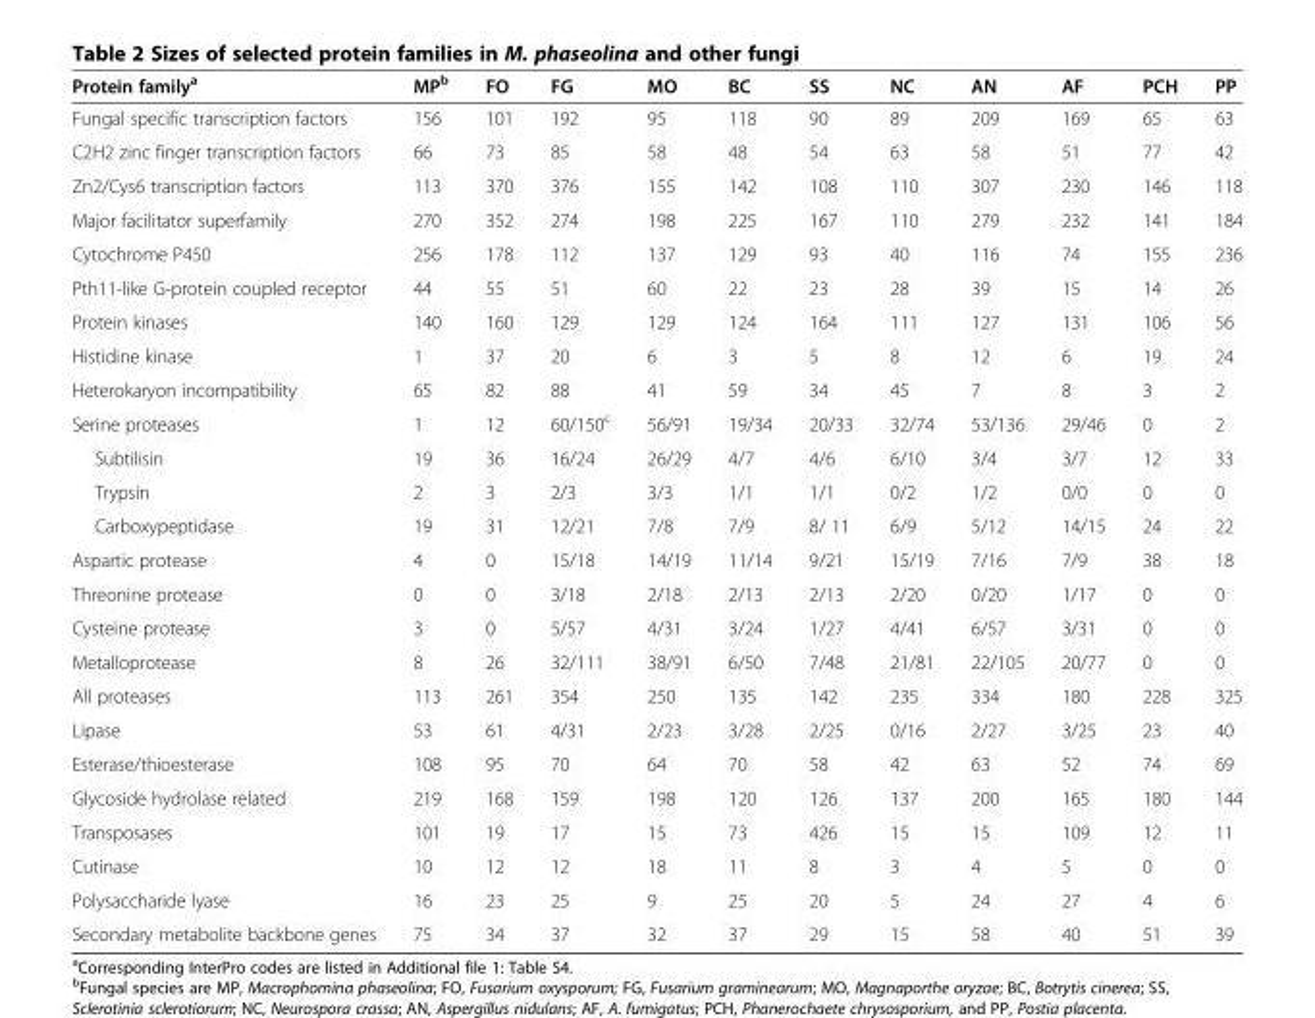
<table><thead><tr><td>Protein family<sup>a</sup></td><td>MP<sup>b</sup></td><td>FO</td><td>FG</td><td>MO</td><td>BC</td><td>SS</td><td>NC</td><td>AN</td><td>AF</td><td>PCH</td><td>PP</td></tr></thead><tbody><tr><td>Fungal specific transcription factors</td><td>156</td><td>101</td><td>192</td><td>95</td><td>118</td><td>90</td><td>89</td><td>209</td><td>169</td><td>65</td><td>63</td></tr><tr><td>C2H2 zinc finger transcription factors</td><td>66</td><td>73</td><td>85</td><td>58</td><td>48</td><td>54</td><td>63</td><td>58</td><td>51</td><td>77</td><td>42</td></tr><tr><td>Zn2/Cys6 transcription factors</td><td>113</td><td>370</td><td>376</td><td>155</td><td>142</td><td>108</td><td>110</td><td>307</td><td>230</td><td>146</td><td>118</td></tr><tr><td>Major facilitator superfamily</td><td>270</td><td>352</td><td>274</td><td>198</td><td>225</td><td>167</td><td>110</td><td>279</td><td>232</td><td>141</td><td>184</td></tr><tr><td>Cytochrome P450</td><td>256</td><td>178</td><td>112</td><td>137</td><td>129</td><td>93</td><td>40</td><td>116</td><td>74</td><td>155</td><td>236</td></tr><tr><td>Pth11-like G-protein coupled receptor</td><td>44</td><td>55</td><td>51</td><td>60</td><td>22</td><td>23</td><td>28</td><td>39</td><td>15</td><td>14</td><td>26</td></tr><tr><td>Protein kinases</td><td>140</td><td>160</td><td>129</td><td>129</td><td>124</td><td>164</td><td>111</td><td>127</td><td>131</td><td>106</td><td>56</td></tr><tr><td>Histidine kinase</td><td>1</td><td>37</td><td>20</td><td>6</td><td>3</td><td>5</td><td>8</td><td>12</td><td>6</td><td>19</td><td>24</td></tr><tr><td>Heterokaryon incompatibility</td><td>65</td><td>82</td><td>88</td><td>41</td><td>59</td><td>34</td><td>45</td><td>7</td><td>8</td><td>3</td><td>2</td></tr><tr><td>Serine proteases</td><td>1</td><td>12</td><td>60/150<sup>c</sup></td><td>56/91</td><td>19/34</td><td>20/33</td><td>32/74</td><td>53/136</td><td>29/46</td><td>0</td><td>2</td></tr><tr><td>Subtilisin</td><td>19</td><td>36</td><td>16/24</td><td>26/29</td><td>4/7</td><td>4/6</td><td>6/10</td><td>3/4</td><td>3/7</td><td>12</td><td>33</td></tr><tr><td>Trypsin</td><td>2</td><td>3</td><td>2/3</td><td>3/3</td><td>1/1</td><td>1/1</td><td>0/2</td><td>1/2</td><td>0/0</td><td>0</td><td>0</td></tr><tr><td>Carboxypeptidase</td><td>19</td><td>31</td><td>12/21</td><td>7/8</td><td>7/9</td><td>8/ 11</td><td>6/9</td><td>5/12</td><td>14/15</td><td>24</td><td>22</td></tr><tr><td>Aspartic protease</td><td>4</td><td>0</td><td>15/18</td><td>14/19</td><td>11/14</td><td>9/21</td><td>15/19</td><td>7/16</td><td>7/9</td><td>38</td><td>18</td></tr><tr><td>Threonine protease</td><td>0</td><td>0</td><td>3/18</td><td>2/18</td><td>2/13</td><td>2/13</td><td>2/20</td><td>0/20</td><td>1/17</td><td>0</td><td>0</td></tr><tr><td>Cysteine protease</td><td>3</td><td>0</td><td>5/57</td><td>4/31</td><td>3/24</td><td>1/27</td><td>4/41</td><td>6/57</td><td>3/31</td><td>0</td><td>0</td></tr><tr><td>Metalloprotease</td><td>8</td><td>26</td><td>32/111</td><td>38/91</td><td>6/50</td><td>7/48</td><td>21/81</td><td>22/105</td><td>20/77</td><td>0</td><td>0</td></tr><tr><td>All proteases</td><td>113</td><td>261</td><td>354</td><td>250</td><td>135</td><td>142</td><td>235</td><td>334</td><td>180</td><td>228</td><td>325</td></tr><tr><td>Lipase</td><td>53</td><td>61</td><td>4/31</td><td>2/23</td><td>3/28</td><td>2/25</td><td>0/16</td><td>2/27</td><td>3/25</td><td>23</td><td>40</td></tr><tr><td>Esterase/thioesterase</td><td>108</td><td>95</td><td>70</td><td>64</td><td>70</td><td>58</td><td>42</td><td>63</td><td>52</td><td>74</td><td>69</td></tr><tr><td>Glycoside hydrolase related</td><td>219</td><td>168</td><td>159</td><td>198</td><td>120</td><td>126</td><td>137</td><td>200</td><td>165</td><td>180</td><td>144</td></tr><tr><td>Transposases</td><td>101</td><td>19</td><td>17</td><td>15</td><td>73</td><td>426</td><td>15</td><td>15</td><td>109</td><td>12</td><td>11</td></tr><tr><td>Cutinase</td><td>10</td><td>12</td><td>12</td><td>18</td><td>11</td><td>8</td><td>3</td><td>4</td><td>5</td><td>0</td><td>0</td></tr><tr><td>Polysaccharide lyase</td><td>16</td><td>23</td><td>25</td><td>9</td><td>25</td><td>20</td><td>5</td><td>24</td><td>27</td><td>4</td><td>6</td></tr><tr><td>Secondary metabolite backbone genes</td><td>75</td><td>34</td><td>37</td><td>32</td><td>37</td><td>29</td><td>15</td><td>58</td><td>40</td><td>51</td><td>39</td></tr></tbody></table>